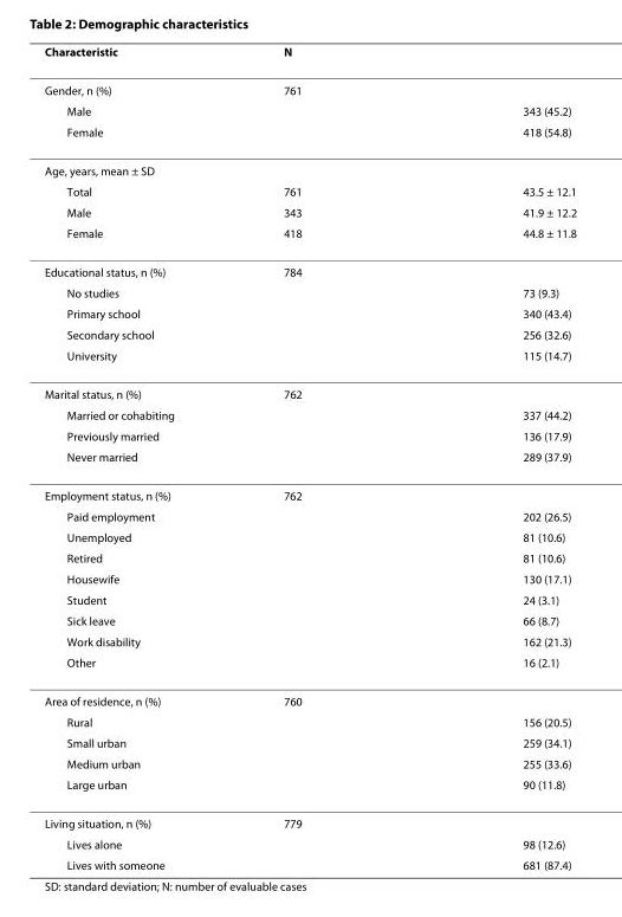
<table><thead><tr><td>Characteristic</td><td>N</td><td></td></tr></thead><tbody><tr><td>Gender, n (%)</td><td>761</td><td></td></tr><tr><td>Male</td><td></td><td>343 (45.2)</td></tr><tr><td>Female</td><td></td><td>418 (54.8)</td></tr><tr><td colspan="3">Age, years, mean ± SD</td></tr><tr><td>Total</td><td>761</td><td>43.5 ± 12.1</td></tr><tr><td>Male</td><td>343</td><td>41.9 ± 12.2</td></tr><tr><td>Female</td><td>418</td><td>44.8 ± 11.8</td></tr><tr><td>Educational status, n (%)</td><td>784</td><td></td></tr><tr><td>No studies</td><td></td><td>73 (9.3)</td></tr><tr><td>Primary school</td><td></td><td>340 (43.4)</td></tr><tr><td>Secondary school</td><td></td><td>256 (32.6)</td></tr><tr><td>University</td><td></td><td>115 (14.7)</td></tr><tr><td>Marital status, n (%)</td><td>762</td><td></td></tr><tr><td>Married or cohabiting</td><td></td><td>337 (44.2)</td></tr><tr><td>Previously married</td><td></td><td>136 (17.9)</td></tr><tr><td>Never married</td><td></td><td>289 (37.9)</td></tr><tr><td>Employment status, n (%)</td><td>762</td><td></td></tr><tr><td>Paid employment</td><td></td><td>202 (26.5)</td></tr><tr><td>Unemployed</td><td></td><td>81 (10.6)</td></tr><tr><td>Retired</td><td></td><td>81 (10.6)</td></tr><tr><td>Housewife</td><td></td><td>130 (17.1)</td></tr><tr><td>Student</td><td></td><td>24 (3.1)</td></tr><tr><td>Sick leave</td><td></td><td>66 (8.7)</td></tr><tr><td>Work disability</td><td></td><td>162 (21.3)</td></tr><tr><td>Other</td><td></td><td>16 (2.1)</td></tr><tr><td>Area of residence, n (%)</td><td>760</td><td></td></tr><tr><td>Rural</td><td></td><td>156 (20.5)</td></tr><tr><td>Small urban</td><td></td><td>259 (34.1)</td></tr><tr><td>Medium urban</td><td></td><td>255 (33.6)</td></tr><tr><td>Large urban</td><td></td><td>90 (11.8)</td></tr><tr><td>Living situation, n (%)</td><td>779</td><td></td></tr><tr><td>Lives alone</td><td></td><td>98 (12.6)</td></tr><tr><td>Lives with someone</td><td></td><td>681 (87.4)</td></tr></tbody></table>